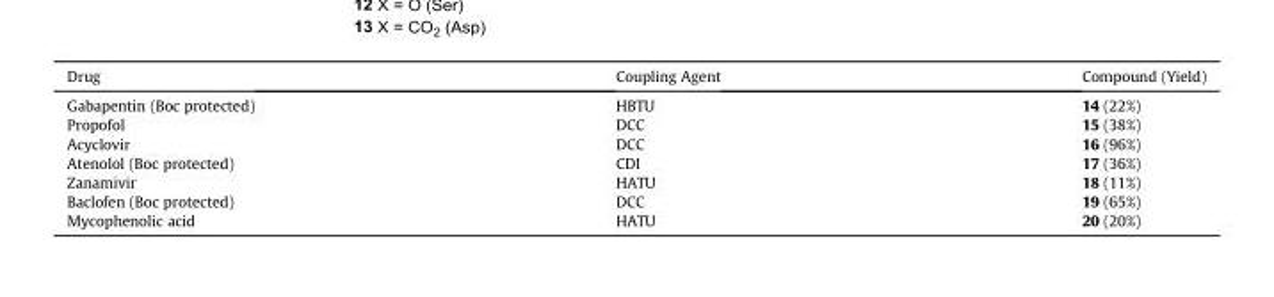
<table><thead><tr><td>Drug</td><td>Coupling Agent</td><td>Compound (Yield)</td></tr></thead><tbody><tr><td>Gabapentin (Boc protected)</td><td>HBTU</td><td>14 (22%)</td></tr><tr><td>Propofol</td><td>DCC</td><td>15 (38%)</td></tr><tr><td>Acyclovir</td><td>DCC</td><td>16 (96%)</td></tr><tr><td>Atenolol (Boc protected)</td><td>CDI</td><td>17 (36%)</td></tr><tr><td>Zanamivir</td><td>HATU</td><td>18 (11%)</td></tr><tr><td>Baclofen (Boc protected)</td><td>DCC</td><td>19 (65%)</td></tr><tr><td>Mycophenolic acid</td><td>HATU</td><td>20 (20%)</td></tr></tbody></table>